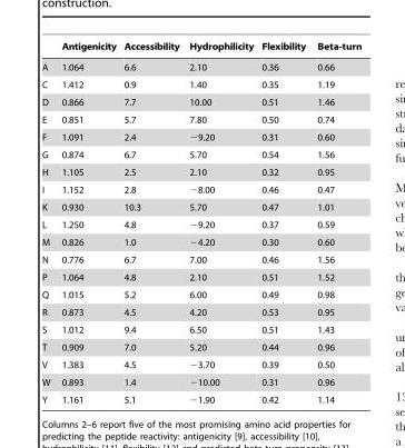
<table><thead><tr><td></td><td>Antigenicity</td><td>Accessibility</td><td>Hydrophilicity</td><td>Flexibility</td><td>Beta-turn</td></tr></thead><tbody><tr><td>A</td><td>1.064</td><td>6.6</td><td>2.10</td><td>0.36</td><td>0.66</td></tr><tr><td>C</td><td>1.412</td><td>0.9</td><td>1.40</td><td>0.35</td><td>1.19</td></tr><tr><td>D</td><td>0.866</td><td>7.7</td><td>10.00</td><td>0.51</td><td>1.46</td></tr><tr><td>E</td><td>0.851</td><td>5.7</td><td>7.80</td><td>0.50</td><td>0.74</td></tr><tr><td>F</td><td>1.091</td><td>2.4</td><td>−9.20</td><td>0.31</td><td>0.60</td></tr><tr><td>G</td><td>0.874</td><td>6.7</td><td>5.70</td><td>0.54</td><td>1.56</td></tr><tr><td>H</td><td>1.105</td><td>2.5</td><td>2.10</td><td>0.32</td><td>0.95</td></tr><tr><td>I</td><td>1.152</td><td>2.8</td><td>−8.00</td><td>0.46</td><td>0.47</td></tr><tr><td>K</td><td>0.930</td><td>10.3</td><td>5.70</td><td>0.47</td><td>1.01</td></tr><tr><td>L</td><td>1.250</td><td>4.8</td><td>−9.20</td><td>0.37</td><td>0.59</td></tr><tr><td>M</td><td>0.826</td><td>1.0</td><td>−4.20</td><td>0.30</td><td>0.60</td></tr><tr><td>N</td><td>0.776</td><td>6.7</td><td>7.00</td><td>0.46</td><td>1.56</td></tr><tr><td>P</td><td>1.064</td><td>4.8</td><td>2.10</td><td>0.51</td><td>1.52</td></tr><tr><td>Q</td><td>1.015</td><td>5.2</td><td>6.00</td><td>0.49</td><td>0.98</td></tr><tr><td>R</td><td>0.873</td><td>4.5</td><td>4.20</td><td>0.53</td><td>0.95</td></tr><tr><td>S</td><td>1.012</td><td>9.4</td><td>6.50</td><td>0.51</td><td>1.43</td></tr><tr><td>T</td><td>0.909</td><td>7.0</td><td>5.20</td><td>0.44</td><td>0.96</td></tr><tr><td>V</td><td>1.383</td><td>4.5</td><td>−3.70</td><td>0.39</td><td>0.50</td></tr><tr><td>W</td><td>0.893</td><td>1.4</td><td>−10.00</td><td>0.31</td><td>0.96</td></tr><tr><td>Y</td><td>1.161</td><td>5.1</td><td>−1.90</td><td>0.42</td><td>1.14</td></tr></tbody></table>